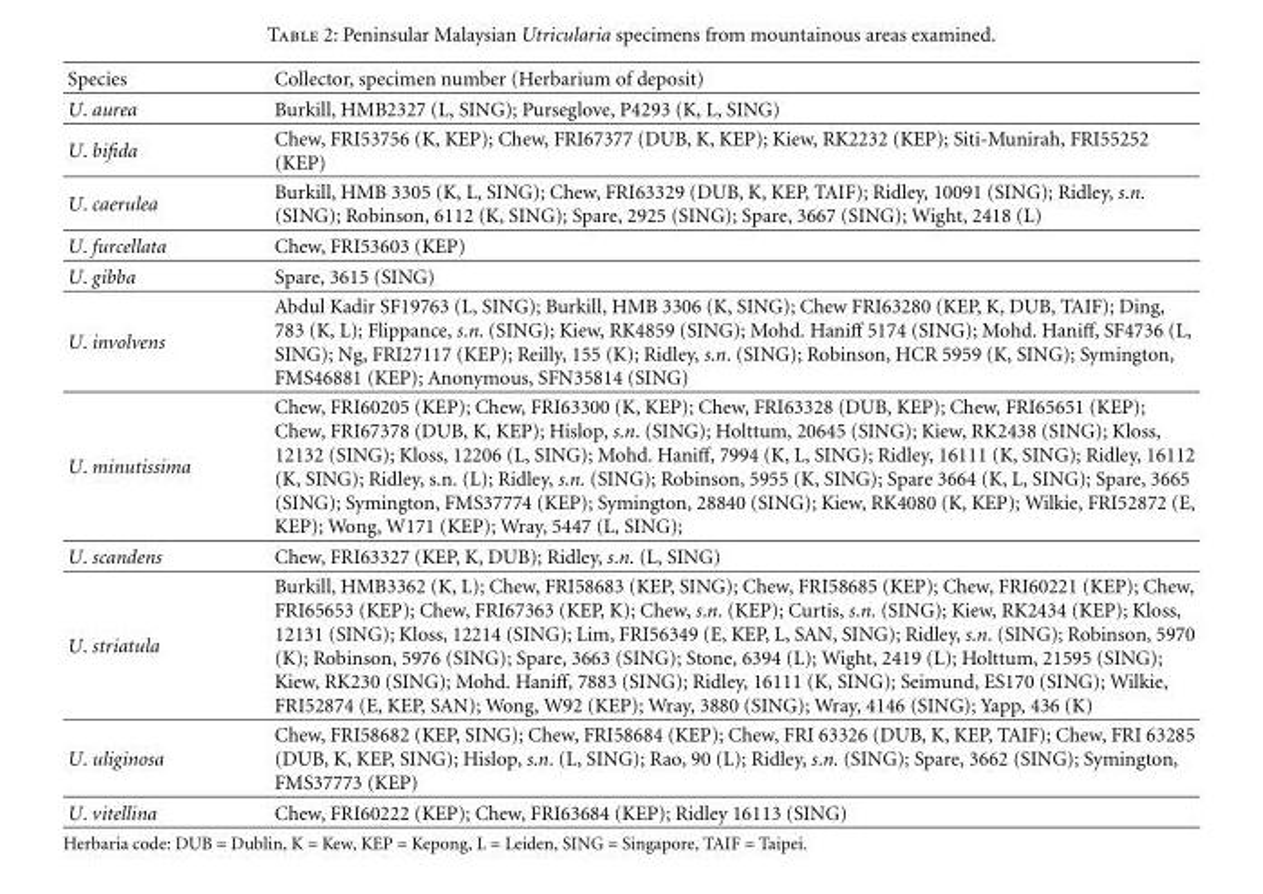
<table><thead><tr><td>Species</td><td>Collector, specimen number (Herbarium of deposit)</td></tr></thead><tbody><tr><td>U. aurea</td><td>Burkill, HMB2327 (L, SING); Purseglove, P4293 (K, L, SING)</td></tr><tr><td>U. bifida</td><td>Chew, FRI53756 (K, KEP); Chew, FRI67377 (DUB, K, KEP); Kiew, RK2232 (KEP); Siti-Munirah, FRI55252 (KEP)</td></tr><tr><td>U. caerulea</td><td>Burkill, HMB 3305 (K, L, SING); Chew, FRI63329 (DUB, K, KEP, TAIF); Ridley, 10091 (SING); Ridley, s.n. (SING); Robinson, 6112 (K, SING); Spare, 2925 (SING); Spare, 3667 (SING); Wight, 2418 (L)</td></tr><tr><td>U. furcellata</td><td>Chew, FRI53603 (KEP)</td></tr><tr><td>U. gibba</td><td>Spare, 3615 (SING)</td></tr><tr><td>U. involvens</td><td>Abdul Kadir SF19763 (L, SING); Burkill, HMB 3306 (K, SING); Chew FRI63280 (KEP, K, DUB, TAIF); Ding, 783 (K, L); Flippance, s.n. (SING); Kiew, RK4859 (SING); Mohd. Haniff 5174 (SING); Mohd. Haniff, SF4736 (L, SING); Ng, FRI27117 (KEP); Reilly, 155 (K); Ridley, s.n. (SING); Robinson, HCR 5959 (K, SING); Symington, FMS46881 (KEP); Anonymous, SFN35814 (SING)</td></tr><tr><td>U. minutissima</td><td>Chew, FRI60205 (KEP); Chew, FRI63300 (K, KEP); Chew, FRI63328 (DUB, KEP); Chew, FRI65651 (KEP); Chew, FRI67378 (DUB, K, KEP); Hislop, s.n. (SING); Holttum, 20645 (SING); Kiew, RK2438 (SING); Kloss, 12132 (SING); Kloss, 12206 (L, SING); Mohd. Haniff, 7994 (K, L, SING); Ridley, 16111 (K, SING); Ridley, 16112 (K, SING); Ridley, s.n. (L); Ridley, s.n. (SING); Robinson, 5955 (K, SING); Spare 3664 (K, L, SING); Spare, 3665 (SING); Symington, FMS37774 (KEP); Symington, 28840 (SING); Kiew, RK4080 (K, KEP); Wilkie, FRI52872 (E, KEP); Wong, W171 (KEP); Wray, 5447 (L, SING);</td></tr><tr><td>U. scandens</td><td>Chew, FRI63327 (KEP, K, DUB); Ridley, s.n. (L, SING)</td></tr><tr><td>U. striatula</td><td>Burkill, HMB3362 (K, L); Chew, FRI58683 (KEP, SING); Chew, FRI58685 (KEP); Chew, FRI60221 (KEP); Chew, FRI65653 (KEP); Chew, FRI67363 (KEP, K); Chew, s.n. (KEP); Curtis, s.n. (SING); Kiew, RK2434 (KEP); Kloss, 12131 (SING); Kloss, 12214 (SING); Lim, FRI56349 (E, KEP, L, SAN, SING); Ridley, s.n. (SING); Robinson, 5970 (K); Robinson, 5976 (SING); Spare, 3663 (SING); Stone, 6394 (L); Wight, 2419 (L); Holttum, 21595 (SING); Kiew, RK230 (SING); Mohd. Haniff, 7883 (SING); Ridley, 16111 (K, SING); Seimund, ES170 (SING); Wilkie, FRI52874 (E, KEP, SAN); Wong, W92 (KEP); Wray, 3880 (SING); Wray, 4146 (SING); Yapp, 436 (K)</td></tr><tr><td>U. uliginosa</td><td>Chew, FRI58682 (KEP, SING); Chew, FRI58684 (KEP); Chew, FRI 63326 (DUB, K, KEP, TAIF); Chew, FRI 63285 (DUB, K, KEP, SING); Hislop, s.n. (L, SING); Rao, 90 (L); Ridley, s.n. (SING); Spare, 3662 (SING); Symington, FMS37773 (KEP)</td></tr><tr><td>U. vitellina</td><td>Chew, FRI60222 (KEP); Chew, FRI63684 (KEP); Ridley 16113 (SING)</td></tr></tbody></table>